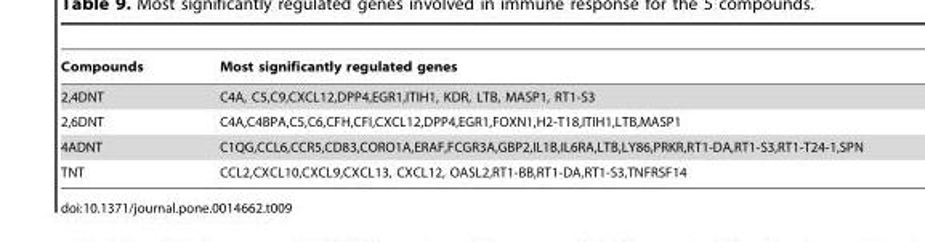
<table><thead><tr><td>Compounds</td><td>Most significantly regulated genes</td></tr></thead><tbody><tr><td>2,4DNT</td><td>C4A, C5,C9,CXCL12,DPP4,EGR1,ITIH1, KDR, LTB, MASP1, RT1-S3</td></tr><tr><td>2,6DNT</td><td>C4A,C4BPA,C5,C6,CFH,CFI,CXCL12,DPP4,EGR1,FOXN1,H2-T18,ITIH1,LTB,MASP1</td></tr><tr><td>4ADNT</td><td>C1QG,CCL6,CCR5,CD83,CORO1A,ERAF,FCGR3A,GBP2,IL1B,IL6RA,LTB,LY86,PRKR,RT1-DA,RT1-S3,RT1-T24-1,SPN</td></tr><tr><td>TNT</td><td>CCL2,CXCL10,CXCL9,CXCL13, CXCL12, OASL2,RT1-BB,RT1-DA,RT1-S3,TNFRSF14</td></tr></tbody></table>